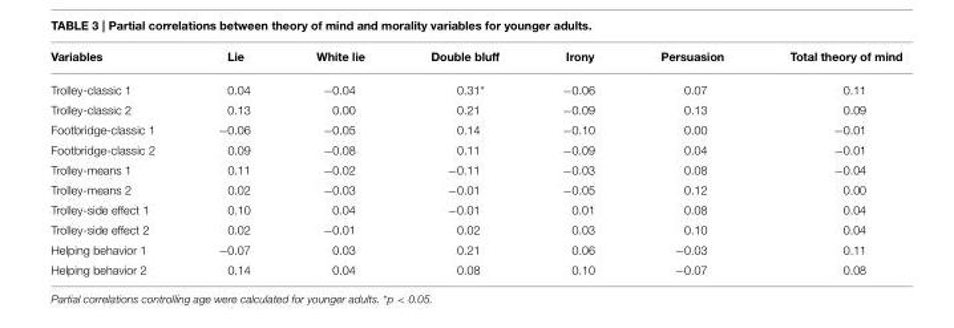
<table><thead><tr><td>Variables</td><td>Lie</td><td>White lie</td><td>Double bluff</td><td>Irony</td><td>Persuasion</td><td>Total theory of mind</td></tr></thead><tbody><tr><td>Trolley-classic 1</td><td>0.04</td><td>−0.04</td><td>0.31*</td><td>−0.06</td><td>0.07</td><td>0.11</td></tr><tr><td>Trolley-classic 2</td><td>0.13</td><td>0.00</td><td>0.21</td><td>−0.09</td><td>0.13</td><td>0.09</td></tr><tr><td>Footbridge-classic 1</td><td>−0.06</td><td>−0.05</td><td>0.14</td><td>−0.10</td><td>0.00</td><td>−0.01</td></tr><tr><td>Footbridge-classic 2</td><td>0.09</td><td>−0.08</td><td>0.11</td><td>−0.09</td><td>0.04</td><td>−0.01</td></tr><tr><td>Trolley-means 1</td><td>0.11</td><td>−0.02</td><td>−0.11</td><td>−0.03</td><td>0.08</td><td>−0.04</td></tr><tr><td>Trolley-means 2</td><td>0.02</td><td>−0.03</td><td>−0.01</td><td>−0.05</td><td>0.12</td><td>0.00</td></tr><tr><td>Trolley-side effect 1</td><td>0.10</td><td>0.04</td><td>−0.01</td><td>0.01</td><td>0.08</td><td>0.04</td></tr><tr><td>Trolley-side effect 2</td><td>0.02</td><td>−0.01</td><td>0.02</td><td>0.03</td><td>0.10</td><td>0.04</td></tr><tr><td>Helping behavior 1</td><td>−0.07</td><td>0.03</td><td>0.21</td><td>0.06</td><td>−0.03</td><td>0.11</td></tr><tr><td>Helping behavior 2</td><td>0.14</td><td>0.04</td><td>0.08</td><td>0.10</td><td>−0.07</td><td>0.08</td></tr></tbody></table>